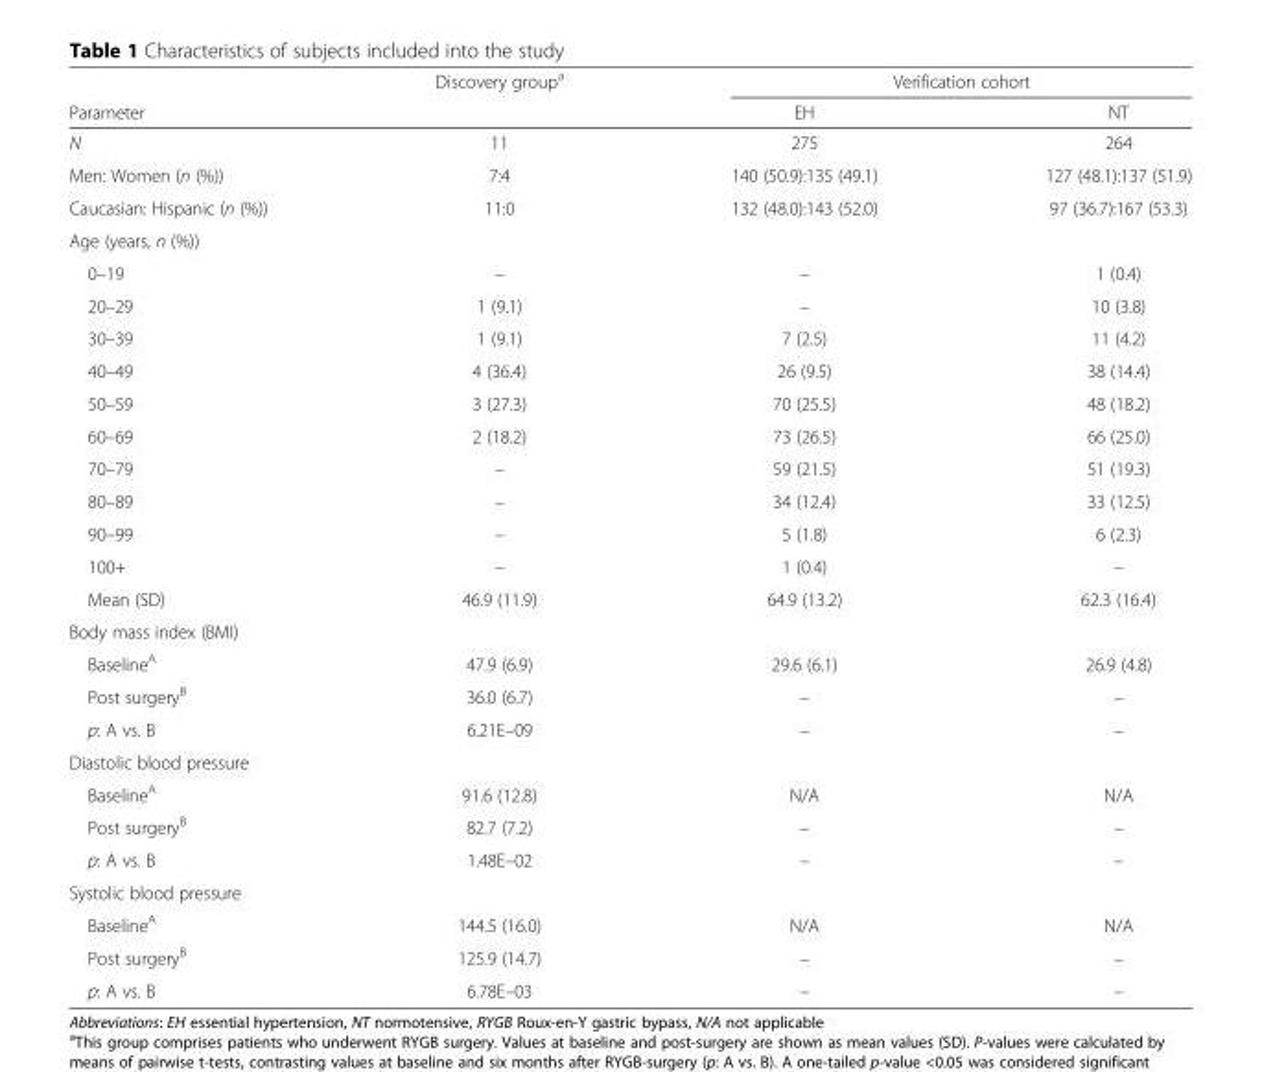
<table><thead><tr><td rowspan="2">Parameter</td><td rowspan="2">Discovery group<sup>a</sup></td><td colspan="2">Verification cohort</td></tr><tr><td>EH</td><td>NT</td></tr></thead><tbody><tr><td>N</td><td>11</td><td>275</td><td>264</td></tr><tr><td>Men: Women (n (%))</td><td>7:4</td><td>140 (50.9):135 (49.1)</td><td>127 (48.1):137 (51.9)</td></tr><tr><td>Caucasian: Hispanic (n (%))</td><td>11:0</td><td>132 (48.0):143 (52.0)</td><td>97 (36.7):167 (53.3)</td></tr><tr><td colspan="4">Age (years, n (%))</td></tr><tr><td>0–19</td><td>–</td><td>–</td><td>1 (0.4)</td></tr><tr><td>20–29</td><td>1 (9.1)</td><td>–</td><td>10 (3.8)</td></tr><tr><td>30–39</td><td>1 (9.1)</td><td>7 (2.5)</td><td>11 (4.2)</td></tr><tr><td>40–49</td><td>4 (36.4)</td><td>26 (9.5)</td><td>38 (14.4)</td></tr><tr><td>50–59</td><td>3 (27.3)</td><td>70 (25.5)</td><td>48 (18.2)</td></tr><tr><td>60–69</td><td>2 (18.2)</td><td>73 (26.5)</td><td>66 (25.0)</td></tr><tr><td>70–79</td><td>–</td><td>59 (21.5)</td><td>51 (19.3)</td></tr><tr><td>80–89</td><td>–</td><td>34 (12.4)</td><td>33 (12.5)</td></tr><tr><td>90–99</td><td>–</td><td>5 (1.8)</td><td>6 (2.3)</td></tr><tr><td>100+</td><td>–</td><td>1 (0.4)</td><td>–</td></tr><tr><td>Mean (SD)</td><td>46.9 (11.9)</td><td>64.9 (13.2)</td><td>62.3 (16.4)</td></tr><tr><td colspan="4">Body mass index (BMI)</td></tr><tr><td>Baseline<sup>A</sup></td><td>47.9 (6.9)</td><td>29.6 (6.1)</td><td>26.9 (4.8)</td></tr><tr><td>Post surgery<sup>B</sup></td><td>36.0 (6.7)</td><td>–</td><td>–</td></tr><tr><td>p: A vs. B</td><td>6.21E–09</td><td>–</td><td>–</td></tr><tr><td colspan="4">Diastolic blood pressure</td></tr><tr><td>Baseline<sup>A</sup></td><td>91.6 (12.8)</td><td>N/A</td><td>N/A</td></tr><tr><td>Post surgery<sup>B</sup></td><td>82.7 (7.2)</td><td>–</td><td>–</td></tr><tr><td>p: A vs. B</td><td>1.48E–02</td><td>–</td><td>–</td></tr><tr><td colspan="4">Systolic blood pressure</td></tr><tr><td>Baseline<sup>A</sup></td><td>144.5 (16.0)</td><td>N/A</td><td>N/A</td></tr><tr><td>Post surgery<sup>B</sup></td><td>125.9 (14.7)</td><td>–</td><td>–</td></tr><tr><td>p: A vs. B</td><td>6.78E–03</td><td>–</td><td>–</td></tr></tbody></table>